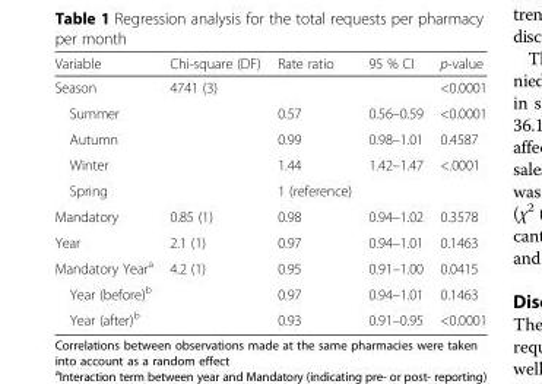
<table><thead><tr><td>Variable</td><td>Chi-square (DF)</td><td>Rate ratio</td><td>95 % CI</td><td>p-value</td></tr></thead><tbody><tr><td>Season</td><td>4741 (3)</td><td></td><td></td><td>&lt;0.0001</td></tr><tr><td>Summer</td><td></td><td>0.57</td><td>0.56–0.59</td><td>&lt;0.0001</td></tr><tr><td>Autumn</td><td></td><td>0.99</td><td>0.98–1.01</td><td>0.4587</td></tr><tr><td>Winter</td><td></td><td>1.44</td><td>1.42–1.47</td><td>&lt;.0001</td></tr><tr><td>Spring</td><td></td><td>1 (reference)</td><td></td><td></td></tr><tr><td>Mandatory</td><td>0.85 (1)</td><td>0.98</td><td>0.94–1.02</td><td>0.3578</td></tr><tr><td>Year</td><td>2.1 (1)</td><td>0.97</td><td>0.94–1.01</td><td>0.1463</td></tr><tr><td>Mandatory Year<sup>a</sup></td><td>4.2 (1)</td><td>0.95</td><td>0.91–1.00</td><td>0.0415</td></tr><tr><td>Year (before)<sup>b</sup></td><td></td><td>0.97</td><td>0.94–1.01</td><td>0.1463</td></tr><tr><td>Year (after)<sup>b</sup></td><td></td><td>0.93</td><td>0.91–0.95</td><td>&lt;0.0001</td></tr></tbody></table>